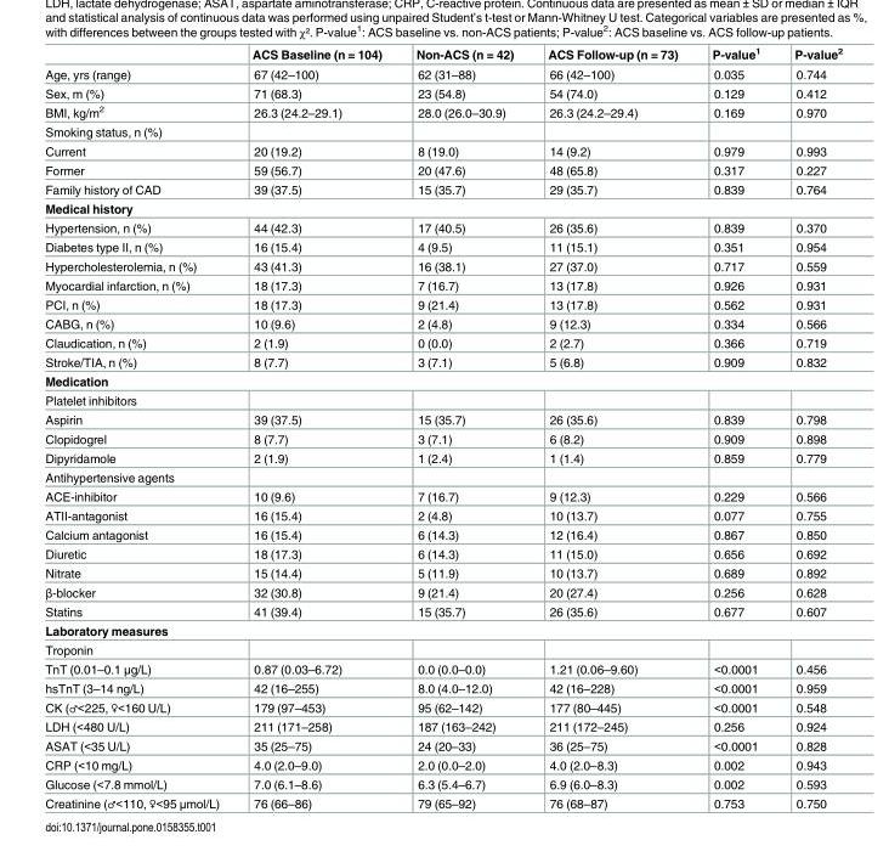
<table><thead><tr><td></td><td>ACS Baseline (n = 104)</td><td>Non-ACS (n = 42)</td><td>ACS Follow-up (n = 73)</td><td>P-value<sup>1</sup></td><td>P-value<sup>2</sup></td></tr></thead><tbody><tr><td>Age, yrs (range)</td><td>67 (42–100)</td><td>62 (31–88)</td><td>66 (42–100)</td><td>0.035</td><td>0.744</td></tr><tr><td>Sex, m (%)</td><td>71 (68.3)</td><td>23 (54.8)</td><td>54 (74.0)</td><td>0.129</td><td>0.412</td></tr><tr><td>BMI, kg/m<sup>2</sup></td><td>26.3 (24.2–29.1)</td><td>28.0 (26.0–30.9)</td><td>26.3 (24.2–29.4)</td><td>0.169</td><td>0.970</td></tr><tr><td colspan="6">Smoking status, n (%)</td></tr><tr><td>Current</td><td>20 (19.2)</td><td>8 (19.0)</td><td>14 (9.2)</td><td>0.979</td><td>0.993</td></tr><tr><td>Former</td><td>59 (56.7)</td><td>20 (47.6)</td><td>48 (65.8)</td><td>0.317</td><td>0.227</td></tr><tr><td>Family history of CAD</td><td>39 (37.5)</td><td>15 (35.7)</td><td>29 (35.7)</td><td>0.839</td><td>0.764</td></tr><tr><td colspan="6">Medical history</td></tr><tr><td>Hypertension, n (%)</td><td>44 (42.3)</td><td>17 (40.5)</td><td>26 (35.6)</td><td>0.839</td><td>0.370</td></tr><tr><td>Diabetes type II, n (%)</td><td>16 (15.4)</td><td>4 (9.5)</td><td>11 (15.1)</td><td>0.351</td><td>0.954</td></tr><tr><td>Hypercholesterolemia, n (%)</td><td>43 (41.3)</td><td>16 (38.1)</td><td>27 (37.0)</td><td>0.717</td><td>0.559</td></tr><tr><td>Myocardial infarction, n (%)</td><td>18 (17.3)</td><td>7 (16.7)</td><td>13 (17.8)</td><td>0.926</td><td>0.931</td></tr><tr><td>PCI, n (%)</td><td>18 (17.3)</td><td>9 (21.4)</td><td>13 (17.8)</td><td>0.562</td><td>0.931</td></tr><tr><td>CABG, n (%)</td><td>10 (9.6)</td><td>2 (4.8)</td><td>9 (12.3)</td><td>0.334</td><td>0.566</td></tr><tr><td>Claudication, n (%)</td><td>2 (1.9)</td><td>0 (0.0)</td><td>2 (2.7)</td><td>0.366</td><td>0.719</td></tr><tr><td>Stroke/TIA, n (%)</td><td>8 (7.7)</td><td>3 (7.1)</td><td>5 (6.8)</td><td>0.909</td><td>0.832</td></tr><tr><td colspan="6">Medication</td></tr><tr><td colspan="6">Platelet inhibitors</td></tr><tr><td>Aspirin</td><td>39 (37.5)</td><td>15 (35.7)</td><td>26 (35.6)</td><td>0.839</td><td>0.798</td></tr><tr><td>Clopidogrel</td><td>8 (7.7)</td><td>3 (7.1)</td><td>6 (8.2)</td><td>0.909</td><td>0.898</td></tr><tr><td>Dipyridamole</td><td>2 (1.9)</td><td>1 (2.4)</td><td>1 (1.4)</td><td>0.859</td><td>0.779</td></tr><tr><td colspan="6">Antihypertensive agents</td></tr><tr><td>ACE-inhibitor</td><td>10 (9.6)</td><td>7 (16.7)</td><td>9 (12.3)</td><td>0.229</td><td>0.566</td></tr><tr><td>ATII-antagonist</td><td>16 (15.4)</td><td>2 (4.8)</td><td>10 (13.7)</td><td>0.077</td><td>0.755</td></tr><tr><td>Calcium antagonist</td><td>16 (15.4)</td><td>6 (14.3)</td><td>12 (16.4)</td><td>0.867</td><td>0.850</td></tr><tr><td>Diuretic</td><td>18 (17.3)</td><td>6 (14.3)</td><td>11 (15.0)</td><td>0.656</td><td>0.692</td></tr><tr><td>Nitrate</td><td>15 (14.4)</td><td>5 (11.9)</td><td>10 (13.7)</td><td>0.689</td><td>0.892</td></tr><tr><td>β-blocker</td><td>32 (30.8)</td><td>9 (21.4)</td><td>20 (27.4)</td><td>0.256</td><td>0.628</td></tr><tr><td>Statins</td><td>41 (39.4)</td><td>15 (35.7)</td><td>26 (35.6)</td><td>0.677</td><td>0.607</td></tr><tr><td colspan="6">Laboratory measures</td></tr><tr><td colspan="6">Troponin</td></tr><tr><td>TnT (0.01–0.1 μg/L)</td><td>0.87 (0.03–6.72)</td><td>0.0 (0.0–0.0)</td><td>1.21 (0.06–9.60)</td><td>&lt;0.0001</td><td>0.456</td></tr><tr><td>hsTnT (3–14 ng/L)</td><td>42 (16–255)</td><td>8.0 (4.0–12.0)</td><td>42 (16–228)</td><td>&lt;0.0001</td><td>0.959</td></tr><tr><td>CK (♂&lt;225, ♀&lt;160 U/L)</td><td>179 (97–453)</td><td>95 (62–142)</td><td>177 (80–445)</td><td>&lt;0.0001</td><td>0.548</td></tr><tr><td>LDH (&lt;480 U/L)</td><td>211 (171–258)</td><td>187 (163–242)</td><td>211 (172–245)</td><td>0.256</td><td>0.924</td></tr><tr><td>ASAT (&lt;35 U/L)</td><td>35 (25–75)</td><td>24 (20–33)</td><td>36 (25–75)</td><td>&lt;0.0001</td><td>0.828</td></tr><tr><td>CRP (&lt;10 mg/L)</td><td>4.0 (2.0–9.0)</td><td>2.0 (0.0–2.0)</td><td>4.0 (2.0–8.3)</td><td>0.002</td><td>0.943</td></tr><tr><td>Glucose (&lt;7.8 mmol/L)</td><td>7.0 (6.1–8.6)</td><td>6.3 (5.4–6.7)</td><td>6.9 (6.0–8.3)</td><td>0.002</td><td>0.593</td></tr><tr><td>Creatinine (♂&lt;110, ♀&lt;95 μmol/L)</td><td>76 (66–86)</td><td>79 (65–92)</td><td>76 (68–87)</td><td>0.753</td><td>0.750</td></tr></tbody></table>